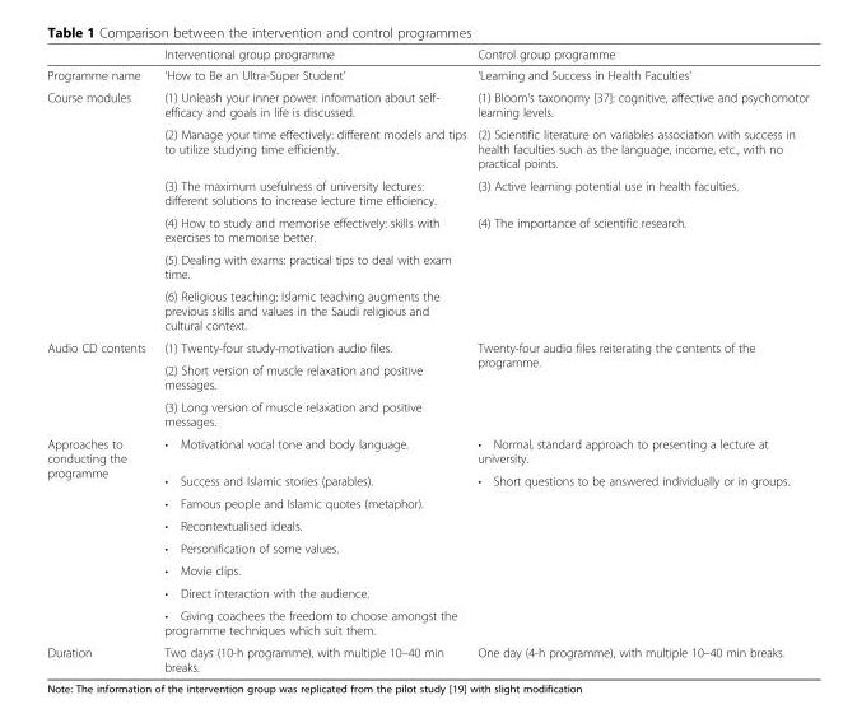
<table><thead><tr><td></td><td>Interventional group programme</td><td>Control group programme</td></tr></thead><tbody><tr><td>Programme name</td><td>‘How to Be an Ultra-Super Student’</td><td>‘Learning and Success in Health Faculties’</td></tr><tr><td rowspan="6">Course modules</td><td>(1) Unleash your inner power: information about self- efficacy and goals in life is discussed.</td><td>(1) Bloom’s taxonomy [37]: cognitive, affective and psychomotor learning levels.</td></tr><tr><td>(2) Manage your time effectively: different models and tips to utilize studying time efficiently.</td><td>(2) Scientific literature on variables association with success in health faculties such as the language, income, etc., with no practical points.</td></tr><tr><td>(3) The maximum usefulness of university lectures: different solutions to increase lecture time efficiency.</td><td>(3) Active learning potential use in health faculties.</td></tr><tr><td>(4) How to study and memorise effectively: skills with exercises to memorise better.</td><td rowspan="3">(4) The importance of scientific research.</td></tr><tr><td>(5) Dealing with exams: practical tips to deal with exam time.</td></tr><tr><td>(6) Religious teaching: Islamic teaching augments the previous skills and values in the Saudi religious and cultural context.</td></tr><tr><td rowspan="3">Audio CD contents</td><td>(1) Twenty-four study-motivation audio files.</td><td rowspan="3">Twenty-four audio files reiterating the contents of the programme.</td></tr><tr><td>(2) Short version of muscle relaxation and positive messages.</td></tr><tr><td>(3) Long version of muscle relaxation and positive messages.</td></tr><tr><td rowspan="8">Approaches to conducting the programme</td><td>• Motivational vocal tone and body language.</td><td>• Normal, standard approach to presenting a lecture at university.</td></tr><tr><td>• Success and Islamic stories (parables).</td><td rowspan="7">• Short questions to be answered individually or in groups.</td></tr><tr><td>• Famous people and Islamic quotes (metaphor).</td></tr><tr><td>• Recontextualised ideals.</td></tr><tr><td>• Personification of some values.</td></tr><tr><td>• Movie clips.</td></tr><tr><td>• Direct interaction with the audience.</td></tr><tr><td>• Giving coachees the freedom to choose amongst the programme techniques which suit them.</td></tr><tr><td>Duration</td><td>Two days (10-h programme), with multiple 10–40 min breaks.</td><td>One day (4-h programme), with multiple 10–40 min breaks.</td></tr></tbody></table>